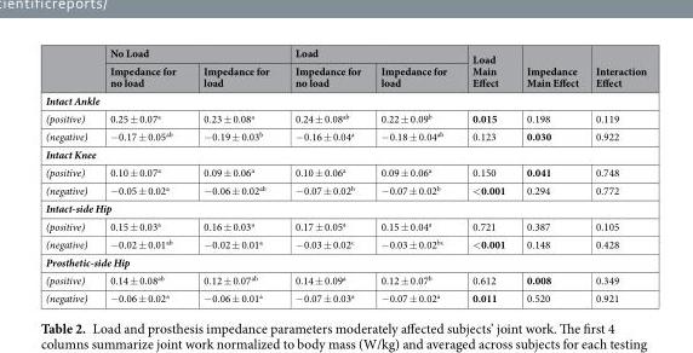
<table><thead><tr><td rowspan="2"></td><td colspan="2">No Load</td><td colspan="2">Load</td><td rowspan="2">Load Main Effect</td><td rowspan="2">Impedance Main Effect</td><td rowspan="2">Interaction Effect</td></tr><tr><td>Impedance for no load</td><td>Impedance for load</td><td>Impedance for no load</td><td>Impedance for load</td></tr></thead><tbody><tr><td colspan="8">Intact Ankle</td></tr><tr><td>(positive)</td><td>0.25 ± 0.07<sup>a</sup></td><td>0.23 ± 0.08<sup>a</sup></td><td>0.24 ± 0.08<sup>ab</sup></td><td>0.22 ± 0.09<sup>b</sup></td><td>0.015</td><td>0.198</td><td>0.119</td></tr><tr><td>(negative)</td><td>−0.17 ± 0.05<sup>ab</sup></td><td>−0.19 ± 0.03<sup>b</sup></td><td>−0.16 ± 0.04<sup>a</sup></td><td>−0.18 ± 0.04<sup>ab</sup></td><td>0.123</td><td>0.030</td><td>0.922</td></tr><tr><td colspan="8">Intact Knee</td></tr><tr><td>(positive)</td><td>0.10 ± 0.07<sup>a</sup></td><td>0.09 ± 0.06<sup>a</sup></td><td>0.10 ± 0.06<sup>a</sup></td><td>0.09 ± 0.06<sup>a</sup></td><td>0.150</td><td>0.041</td><td>0.748</td></tr><tr><td>(negative)</td><td>−0.05 ± 0.02<sup>a</sup></td><td>−0.06 ± 0.02<sup>ab</sup></td><td>−0.07 ± 0.02<sup>b</sup></td><td>−0.07 ± 0.02<sup>b</sup></td><td>&lt;0.001</td><td>0.294</td><td>0.772</td></tr><tr><td colspan="8">Intact-side Hip</td></tr><tr><td>(positive)</td><td>0.15 ± 0.03<sup>a</sup></td><td>0.16 ± 0.03<sup>a</sup></td><td>0.17 ± 0.05<sup>a</sup></td><td>0.15 ± 0.04<sup>a</sup></td><td>0.721</td><td>0.387</td><td>0.105</td></tr><tr><td>(negative)</td><td>−0.02 ± 0.01<sup>ab</sup></td><td>−0.02 ± 0.01<sup>a</sup></td><td>−0.03 ± 0.02<sup>c</sup></td><td>−0.03 ± 0.02<sup>bc</sup></td><td>&lt;0.001</td><td>0.148</td><td>0.428</td></tr><tr><td colspan="8">Prosthetic-side Hip</td></tr><tr><td>(positive)</td><td>0.14 ± 0.08<sup>ab</sup></td><td>0.12 ± 0.07<sup>ab</sup></td><td>0.14 ± 0.09<sup>a</sup></td><td>0.12 ± 0.07<sup>b</sup></td><td>0.612</td><td>0.008</td><td>0.349</td></tr><tr><td>(negative)</td><td>−0.06 ± 0.02<sup>a</sup></td><td>−0.06 ± 0.01<sup>a</sup></td><td>−0.07 ± 0.03<sup>a</sup></td><td>−0.07 ± 0.02<sup>a</sup></td><td>0.011</td><td>0.520</td><td>0.921</td></tr></tbody></table>